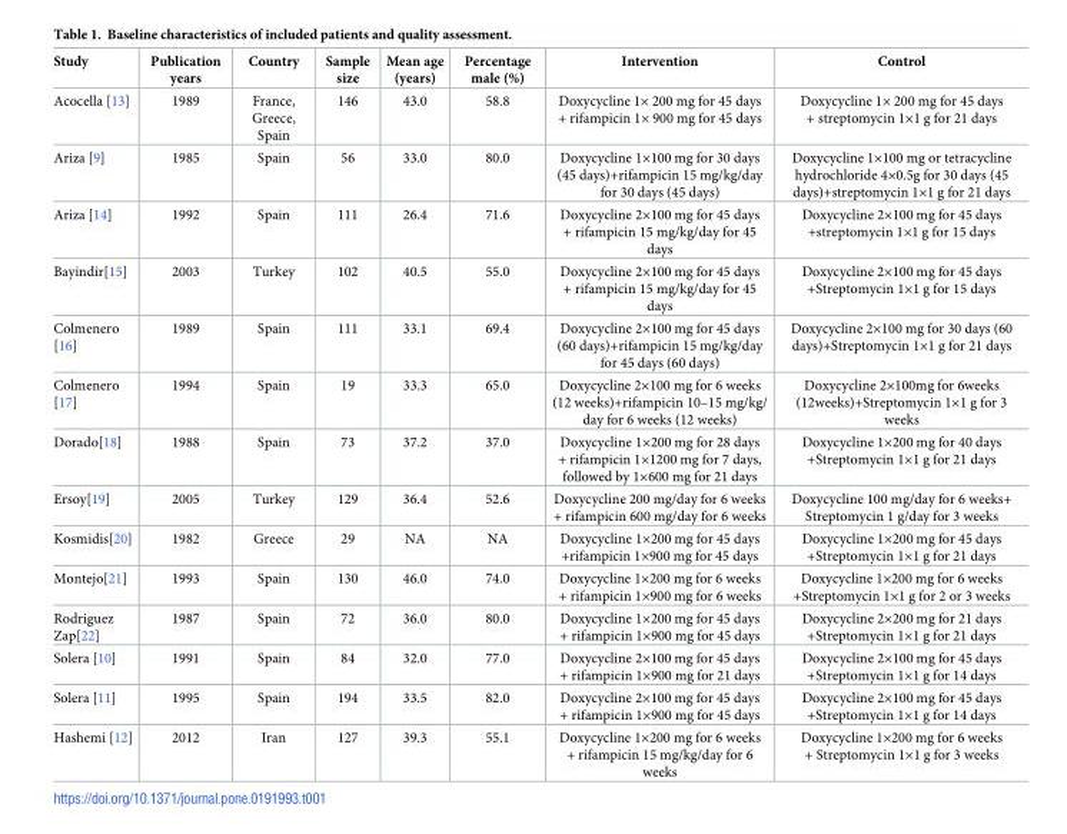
<table><thead><tr><td>Study</td><td>Publication years</td><td>Country</td><td>Sample size</td><td>Mean age (years)</td><td>Percentage male (%)</td><td>Intervention</td><td>Control</td></tr></thead><tbody><tr><td>Acocella [13]</td><td>1989</td><td>France, Greece, Spain</td><td>146</td><td>43.0</td><td>58.8</td><td>Doxycycline 1× 200 mg for 45 days + rifampicin 1× 900 mg for 45 days</td><td>Doxycycline 1× 200 mg for 45 days + streptomycin 1×1 g for 21 days</td></tr><tr><td>Ariza [9]</td><td>1985</td><td>Spain</td><td>56</td><td>33.0</td><td>80.0</td><td>Doxycycline 1×100 mg for 30 days (45 days)+rifampicin 15 mg/kg/day for 30 days (45 days)</td><td>Doxycycline 1×100 mg or tetracycline hydrochloride 4×0.5g for 30 days (45 days)+streptomycin 1×1 g for 21 days</td></tr><tr><td>Ariza [14]</td><td>1992</td><td>Spain</td><td>111</td><td>26.4</td><td>71.6</td><td>Doxycycline 2×100 mg for 45 days + rifampicin 15 mg/kg/day for 45 days</td><td>Doxycycline 2×100 mg for 45 days +streptomycin 1×1 g for 15 days</td></tr><tr><td>Bayindir[15]</td><td>2003</td><td>Turkey</td><td>102</td><td>40.5</td><td>55.0</td><td>Doxycycline 2×100 mg for 45 days + rifampicin 15 mg/kg/day for 45 days</td><td>Doxycycline 2×100 mg for 45 days +Streptomycin 1×1 g for 15 days</td></tr><tr><td>Colmenero [16]</td><td>1989</td><td>Spain</td><td>111</td><td>33.1</td><td>69.4</td><td>Doxycycline 2×100 mg for 45 days (60 days)+rifampicin 15 mg/kg/day for 45 days (60 days)</td><td>Doxycycline 2×100 mg for 30 days (60 days)+Streptomycin 1×1 g for 21 days</td></tr><tr><td>Colmenero [17]</td><td>1994</td><td>Spain</td><td>19</td><td>33.3</td><td>65.0</td><td>Doxycycline 2×100 mg for 6 weeks (12 weeks)+rifampicin 10–15 mg/kg/ day for 6 weeks (12 weeks)</td><td>Doxycycline 2×100mg for 6weeks (12weeks)+Streptomycin 1×1 g for 3 weeks</td></tr><tr><td>Dorado[18]</td><td>1988</td><td>Spain</td><td>73</td><td>37.2</td><td>37.0</td><td>Doxycycline 1×200 mg for 28 days + rifampicin 1×1200 mg for 7 days, followed by 1×600 mg for 21 days</td><td>Doxycycline 1×200 mg for 40 days +Streptomycin 1×1 g for 21 days</td></tr><tr><td>Ersoy[19]</td><td>2005</td><td>Turkey</td><td>129</td><td>36.4</td><td>52.6</td><td>Doxycycline 200 mg/day for 6 weeks + rifampicin 600 mg/day for 6 weeks</td><td>Doxycycline 100 mg/day for 6 weeks+ Streptomycin 1 g/day for 3 weeks</td></tr><tr><td>Kosmidis[20]</td><td>1982</td><td>Greece</td><td>29</td><td>NA</td><td>NA</td><td>Doxycycline 1×200 mg for 45 days +rifampicin 1×900 mg for 45 days</td><td>Doxycycline 1×200 mg for 45 days +Streptomycin 1×1 g for 21 days</td></tr><tr><td>Montejo[21]</td><td>1993</td><td>Spain</td><td>130</td><td>46.0</td><td>74.0</td><td>Doxycycline 1×200 mg for 6 weeks + rifampicin 1×900 mg for 6 weeks</td><td>Doxycycline 1×200 mg for 6 weeks +Streptomycin 1×1 g for 2 or 3 weeks</td></tr><tr><td>Rodriguez Zap[22]</td><td>1987</td><td>Spain</td><td>72</td><td>36.0</td><td>80.0</td><td>Doxycycline 1×200 mg for 45 days + rifampicin 1×900 mg for 45 days</td><td>Doxycycline 2×200 mg for 21 days +Streptomycin 1×1 g for 21 days</td></tr><tr><td>Solera [10]</td><td>1991</td><td>Spain</td><td>84</td><td>32.0</td><td>77.0</td><td>Doxycycline 2×100 mg for 45 days + rifampicin 1×900 mg for 21 days</td><td>Doxycycline 2×100 mg for 45 days +Streptomycin 1×1 g for 14 days</td></tr><tr><td>Solera [11]</td><td>1995</td><td>Spain</td><td>194</td><td>33.5</td><td>82.0</td><td>Doxycycline 2×100 mg for 45 days + rifampicin 1×900 mg for 45 days</td><td>Doxycycline 2×100 mg for 45 days +Streptomycin 1×1 g for 14 days</td></tr><tr><td>Hashemi [12]</td><td>2012</td><td>Iran</td><td>127</td><td>39.3</td><td>55.1</td><td>Doxycycline 1×200 mg for 6 weeks + rifampicin 15 mg/kg/day for 6 weeks</td><td>Doxycycline 1×200 mg for 6 weeks + Streptomycin 1×1 g for 3 weeks</td></tr></tbody></table>